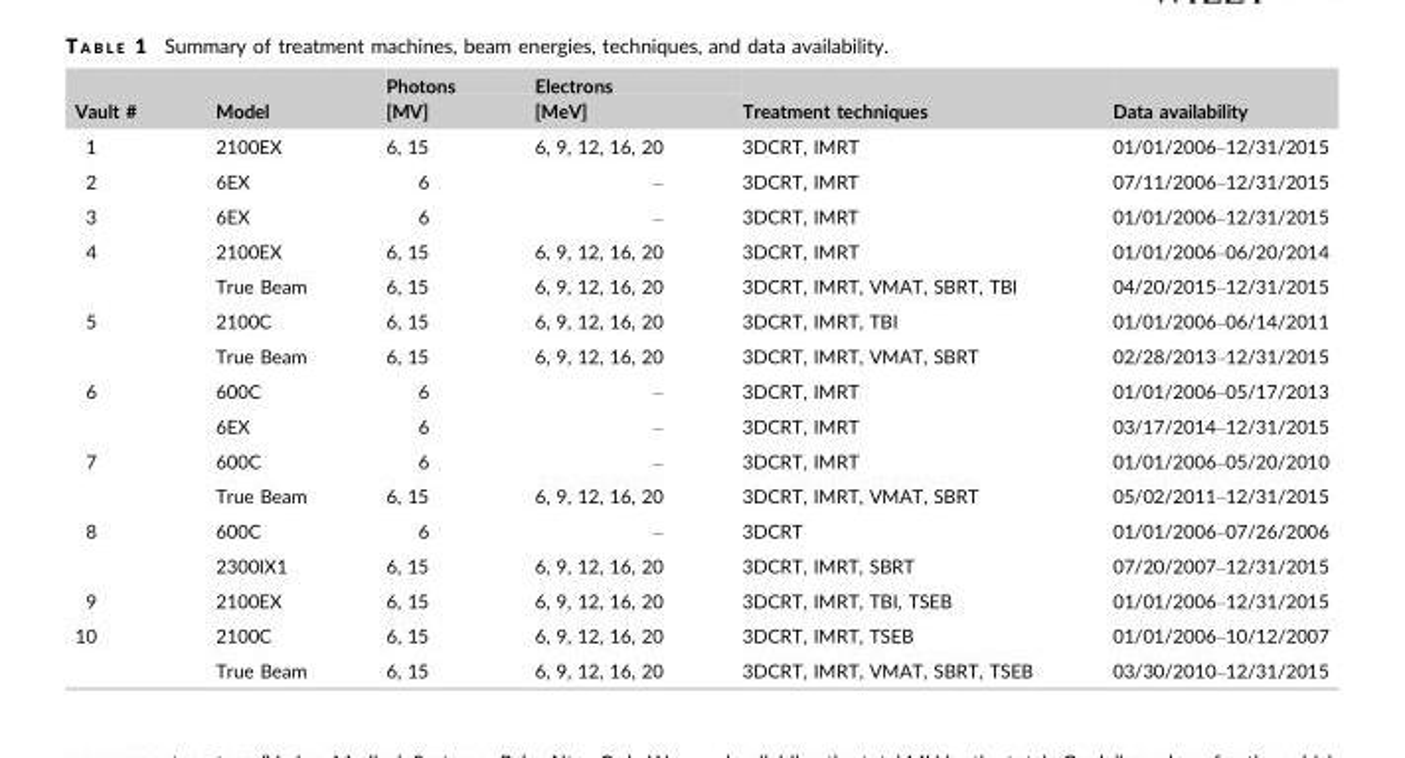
<table><thead><tr><td rowspan="2">Vault #</td><td rowspan="2">Model</td><td rowspan="2">Photons [MV]</td><td rowspan="2">Electrons [MeV]</td><td rowspan="2">Treatment techniques</td><td rowspan="2">Data availability</td></tr><tr></tr></thead><tbody><tr><td>1</td><td>2100EX</td><td>6, 15</td><td>6, 9, 12, 16, 20</td><td>3DCRT, IMRT</td><td>01/01/2006–12/31/2015</td></tr><tr><td>2</td><td>6EX</td><td>6</td><td>–</td><td>3DCRT, IMRT</td><td>07/11/2006–12/31/2015</td></tr><tr><td>3</td><td>6EX</td><td>6</td><td>–</td><td>3DCRT, IMRT</td><td>01/01/2006–12/31/2015</td></tr><tr><td rowspan="2">4</td><td>2100EX</td><td>6, 15</td><td>6, 9, 12, 16, 20</td><td>3DCRT, IMRT</td><td>01/01/2006–06/20/2014</td></tr><tr><td>True Beam</td><td>6, 15</td><td>6, 9, 12, 16, 20</td><td>3DCRT, IMRT, VMAT, SBRT, TBI</td><td>04/20/2015–12/31/2015</td></tr><tr><td rowspan="2">5</td><td>2100C</td><td>6, 15</td><td>6, 9, 12, 16, 20</td><td>3DCRT, IMRT, TBI</td><td>01/01/2006–06/14/2011</td></tr><tr><td>True Beam</td><td>6, 15</td><td>6, 9, 12, 16, 20</td><td>3DCRT, IMRT, VMAT, SBRT</td><td>02/28/2013–12/31/2015</td></tr><tr><td rowspan="2">6</td><td>600C</td><td>6</td><td>–</td><td>3DCRT, IMRT</td><td>01/01/2006–05/17/2013</td></tr><tr><td>6EX</td><td>6</td><td>–</td><td>3DCRT, IMRT</td><td>03/17/2014–12/31/2015</td></tr><tr><td rowspan="2">7</td><td>600C</td><td>6</td><td>–</td><td>3DCRT, IMRT</td><td>01/01/2006–05/20/2010</td></tr><tr><td>True Beam</td><td>6, 15</td><td>6, 9, 12, 16, 20</td><td>3DCRT, IMRT, VMAT, SBRT</td><td>05/02/2011–12/31/2015</td></tr><tr><td rowspan="2">8</td><td>600C</td><td>6</td><td>–</td><td>3DCRT</td><td>01/01/2006–07/26/2006</td></tr><tr><td>2300IX1</td><td>6, 15</td><td>6, 9, 12, 16, 20</td><td>3DCRT, IMRT, SBRT</td><td>07/20/2007–12/31/2015</td></tr><tr><td>9</td><td>2100EX</td><td>6, 15</td><td>6, 9, 12, 16, 20</td><td>3DCRT, IMRT, TBI, TSEB</td><td>01/01/2006–12/31/2015</td></tr><tr><td rowspan="2">10</td><td>2100C</td><td>6, 15</td><td>6, 9, 12, 16, 20</td><td>3DCRT, IMRT, TSEB</td><td>01/01/2006–10/12/2007</td></tr><tr><td>True Beam</td><td>6, 15</td><td>6, 9, 12, 16, 20</td><td>3DCRT, IMRT, VMAT, SBRT, TSEB</td><td>03/30/2010–12/31/2015</td></tr></tbody></table>